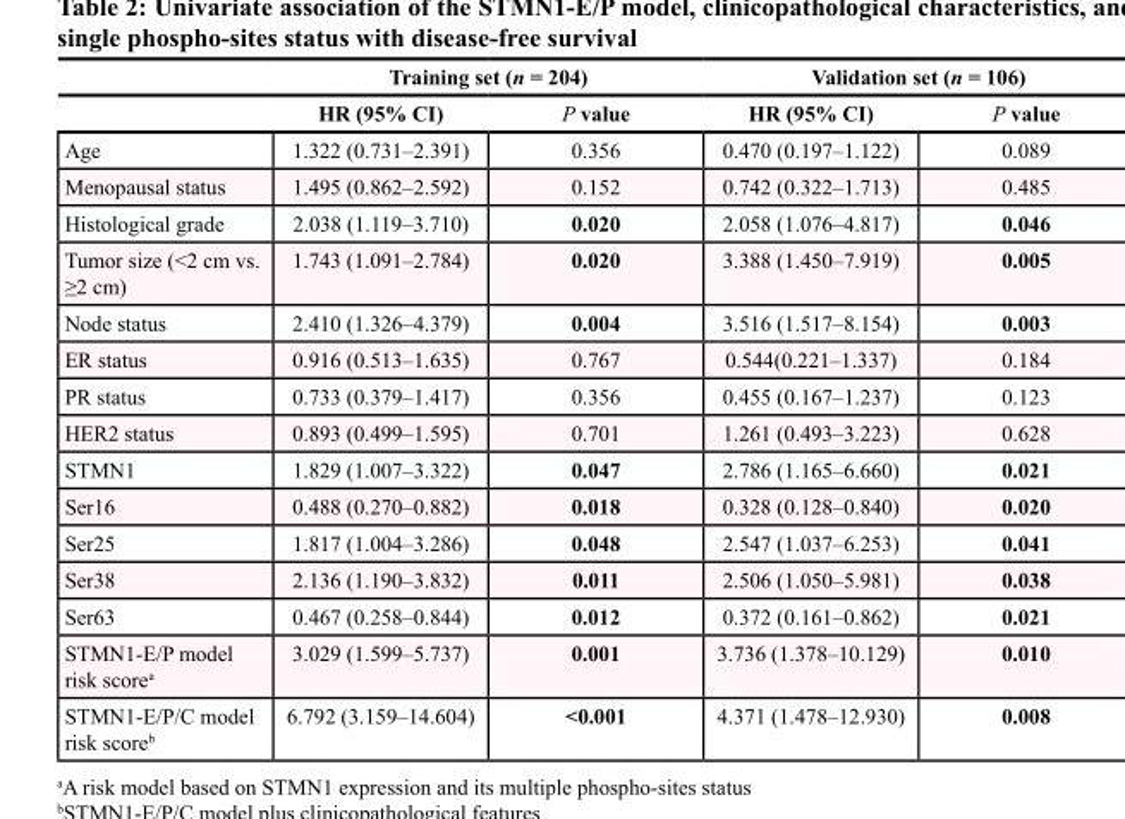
<table><thead><tr><td rowspan="2"></td><td colspan="2">Training set (n = 204)</td><td colspan="2">Validation set (n = 106)</td></tr><tr><td>HR (95% CI)</td><td>P value</td><td>HR (95% CI)</td><td>P value</td></tr></thead><tbody><tr><td>Age</td><td>1.322 (0.731–2.391)</td><td>0.356</td><td>0.470 (0.197–1.122)</td><td>0.089</td></tr><tr><td>Menopausal status</td><td>1.495 (0.862–2.592)</td><td>0.152</td><td>0.742 (0.322–1.713)</td><td>0.485</td></tr><tr><td>Histological grade</td><td>2.038 (1.119–3.710)</td><td>0.020</td><td>2.058 (1.076–4.817)</td><td>0.046</td></tr><tr><td>Tumor size (&lt;2 cm vs. ≥2 cm)</td><td>1.743 (1.091–2.784)</td><td>0.020</td><td>3.388 (1.450–7.919)</td><td>0.005</td></tr><tr><td>Node status</td><td>2.410 (1.326–4.379)</td><td>0.004</td><td>3.516 (1.517–8.154)</td><td>0.003</td></tr><tr><td>ER status</td><td>0.916 (0.513–1.635)</td><td>0.767</td><td>0.544(0.221–1.337)</td><td>0.184</td></tr><tr><td>PR status</td><td>0.733 (0.379–1.417)</td><td>0.356</td><td>0.455 (0.167–1.237)</td><td>0.123</td></tr><tr><td>HER2 status</td><td>0.893 (0.499–1.595)</td><td>0.701</td><td>1.261 (0.493–3.223)</td><td>0.628</td></tr><tr><td>STMN1</td><td>1.829 (1.007–3.322)</td><td>0.047</td><td>2.786 (1.165–6.660)</td><td>0.021</td></tr><tr><td>Ser16</td><td>0.488 (0.270–0.882)</td><td>0.018</td><td>0.328 (0.128–0.840)</td><td>0.020</td></tr><tr><td>Ser25</td><td>1.817 (1.004–3.286)</td><td>0.048</td><td>2.547 (1.037–6.253)</td><td>0.041</td></tr><tr><td>Ser38</td><td>2.136 (1.190–3.832)</td><td>0.011</td><td>2.506 (1.050–5.981)</td><td>0.038</td></tr><tr><td>Ser63</td><td>0.467 (0.258–0.844)</td><td>0.012</td><td>0.372 (0.161–0.862)</td><td>0.021</td></tr><tr><td>STMN1-E/P model risk score<sup>a</sup></td><td>3.029 (1.599–5.737)</td><td>0.001</td><td>3.736 (1.378–10.129)</td><td>0.010</td></tr><tr><td>STMN1-E/P/C model risk score<sup>b</sup></td><td>6.792 (3.159–14.604)</td><td>&lt;0.001</td><td>4.371 (1.478–12.930)</td><td>0.008</td></tr></tbody></table>